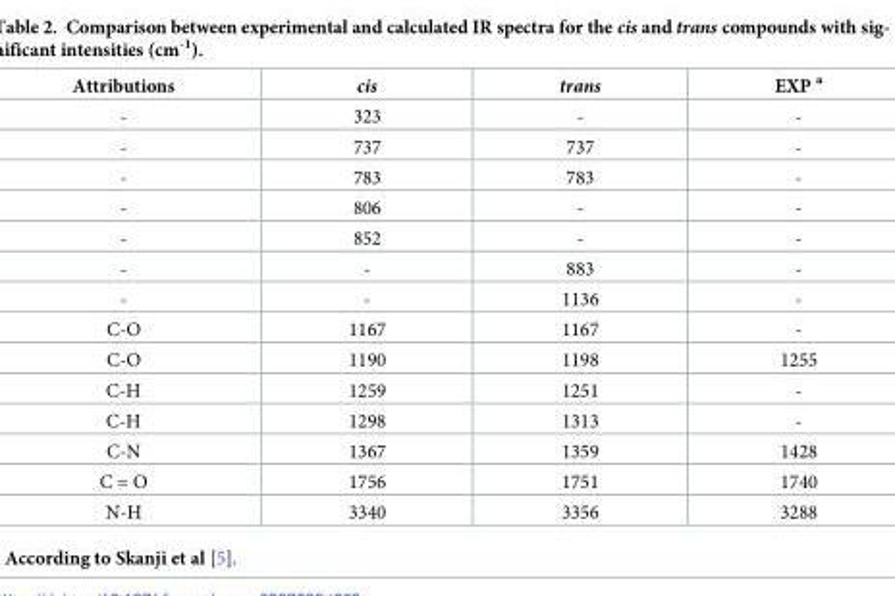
<table><thead><tr><td>Attributions</td><td>cis</td><td>trans</td><td>EXP <sup>a</sup></td></tr></thead><tbody><tr><td>-</td><td>323</td><td>-</td><td>-</td></tr><tr><td>-</td><td>737</td><td>737</td><td>-</td></tr><tr><td>-</td><td>783</td><td>783</td><td>-</td></tr><tr><td>-</td><td>806</td><td>-</td><td>-</td></tr><tr><td>-</td><td>852</td><td>-</td><td>-</td></tr><tr><td>-</td><td>-</td><td>883</td><td>-</td></tr><tr><td>-</td><td>-</td><td>1136</td><td>-</td></tr><tr><td>C-O</td><td>1167</td><td>1167</td><td>-</td></tr><tr><td>C-O</td><td>1190</td><td>1198</td><td>1255</td></tr><tr><td>C-H</td><td>1259</td><td>1251</td><td>-</td></tr><tr><td>C-H</td><td>1298</td><td>1313</td><td>-</td></tr><tr><td>C-N</td><td>1367</td><td>1359</td><td>1428</td></tr><tr><td>C = O</td><td>1756</td><td>1751</td><td>1740</td></tr><tr><td>N-H</td><td>3340</td><td>3356</td><td>3288</td></tr></tbody></table>